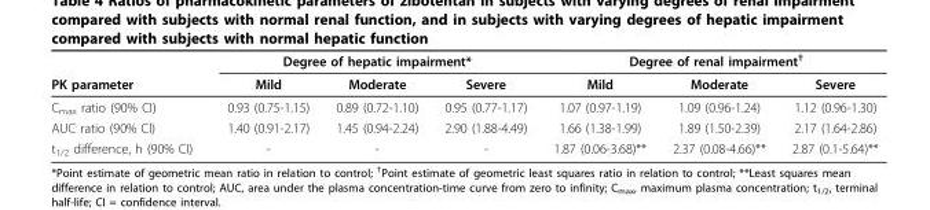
<table><thead><tr><td rowspan="2">PK parameter</td><td colspan="3">Degree of hepatic impairment*</td><td colspan="3">Degree of renal impairment<sup>†</sup></td></tr><tr><td>Mild</td><td>Moderate</td><td>Severe</td><td>Mild</td><td>Moderate</td><td>Severe</td></tr></thead><tbody><tr><td>C<sub>max</sub> ratio (90% CI)</td><td>0.93 (0.75-1.15)</td><td>0.89 (0.72-1.10)</td><td>0.95 (0.77-1.17)</td><td>1.07 (0.97-1.19)</td><td>1.09 (0.96-1.24)</td><td>1.12 (0.96-1.30)</td></tr><tr><td>AUC ratio (90% CI)</td><td>1.40 (0.91-2.17)</td><td>1.45 (0.94-2.24)</td><td>2.90 (1.88-4.49)</td><td>1.66 (1.38-1.99)</td><td>1.89 (1.50-2.39)</td><td>2.17 (1.64-2.86)</td></tr><tr><td>t<sub>1/2</sub> difference, h (90% CI)</td><td>-</td><td>-</td><td>-</td><td>1.87 (0.06-3.68)**</td><td>2.37 (0.08-4.66)**</td><td>2.87 (0.1-5.64)**</td></tr></tbody></table>